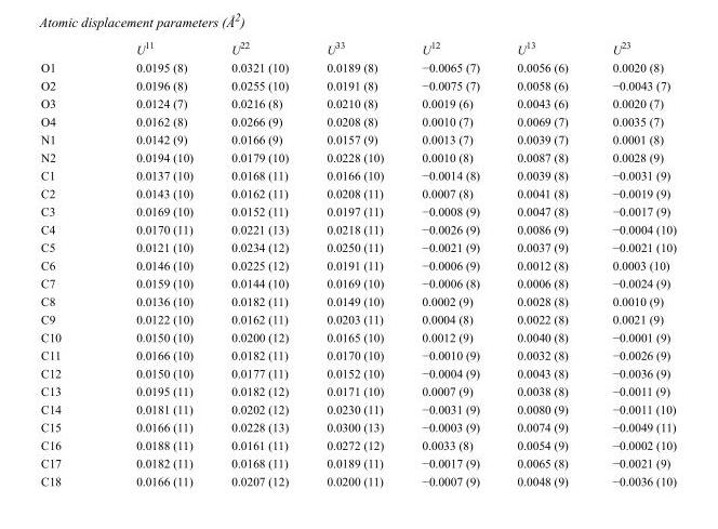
<table><thead><tr><td></td><td>U<sup>11</sup></td><td>U<sup>22</sup></td><td>U<sup>33</sup></td><td>U<sup>12</sup></td><td>U<sup>13</sup></td><td>U<sup>23</sup></td></tr></thead><tbody><tr><td>O1</td><td>0.0195 (8)</td><td>0.0321 (10)</td><td>0.0189 (8)</td><td>−0.0065 (7)</td><td>0.0056 (6)</td><td>0.0020 (8)</td></tr><tr><td>O2</td><td>0.0196 (8)</td><td>0.0255 (10)</td><td>0.0191 (8)</td><td>−0.0075 (7)</td><td>0.0058 (6)</td><td>−0.0043 (7)</td></tr><tr><td>O3</td><td>0.0124 (7)</td><td>0.0216 (8)</td><td>0.0210 (8)</td><td>0.0019 (6)</td><td>0.0043 (6)</td><td>0.0020 (7)</td></tr><tr><td>O4</td><td>0.0162 (8)</td><td>0.0266 (9)</td><td>0.0208 (8)</td><td>0.0010 (7)</td><td>0.0069 (7)</td><td>0.0035 (7)</td></tr><tr><td>N1</td><td>0.0142 (9)</td><td>0.0166 (9)</td><td>0.0157 (9)</td><td>0.0013 (7)</td><td>0.0039 (7)</td><td>0.0001 (8)</td></tr><tr><td>N2</td><td>0.0194 (10)</td><td>0.0179 (10)</td><td>0.0228 (10)</td><td>0.0010 (8)</td><td>0.0087 (8)</td><td>0.0028 (9)</td></tr><tr><td>C1</td><td>0.0137 (10)</td><td>0.0168 (11)</td><td>0.0166 (10)</td><td>−0.0014 (8)</td><td>0.0039 (8)</td><td>−0.0031 (9)</td></tr><tr><td>C2</td><td>0.0143 (10)</td><td>0.0162 (11)</td><td>0.0208 (11)</td><td>0.0007 (8)</td><td>0.0041 (8)</td><td>−0.0019 (9)</td></tr><tr><td>C3</td><td>0.0169 (10)</td><td>0.0152 (11)</td><td>0.0197 (11)</td><td>−0.0008 (9)</td><td>0.0047 (8)</td><td>−0.0017 (9)</td></tr><tr><td>C4</td><td>0.0170 (11)</td><td>0.0221 (13)</td><td>0.0218 (11)</td><td>−0.0026 (9)</td><td>0.0086 (9)</td><td>−0.0004 (10)</td></tr><tr><td>C5</td><td>0.0121 (10)</td><td>0.0234 (12)</td><td>0.0250 (11)</td><td>−0.0021 (9)</td><td>0.0037 (9)</td><td>−0.0021 (10)</td></tr><tr><td>C6</td><td>0.0146 (10)</td><td>0.0225 (12)</td><td>0.0191 (11)</td><td>−0.0006 (9)</td><td>0.0012 (8)</td><td>0.0003 (10)</td></tr><tr><td>C7</td><td>0.0159 (10)</td><td>0.0144 (10)</td><td>0.0169 (10)</td><td>−0.0006 (8)</td><td>0.0006 (8)</td><td>−0.0024 (9)</td></tr><tr><td>C8</td><td>0.0136 (10)</td><td>0.0182 (11)</td><td>0.0149 (10)</td><td>0.0002 (9)</td><td>0.0028 (8)</td><td>0.0010 (9)</td></tr><tr><td>C9</td><td>0.0122 (10)</td><td>0.0162 (11)</td><td>0.0203 (11)</td><td>0.0004 (8)</td><td>0.0022 (8)</td><td>0.0021 (9)</td></tr><tr><td>C10</td><td>0.0150 (10)</td><td>0.0200 (12)</td><td>0.0165 (10)</td><td>0.0012 (9)</td><td>0.0040 (8)</td><td>−0.0001 (9)</td></tr><tr><td>C11</td><td>0.0166 (10)</td><td>0.0182 (11)</td><td>0.0170 (10)</td><td>−0.0010 (9)</td><td>0.0032 (8)</td><td>−0.0026 (9)</td></tr><tr><td>C12</td><td>0.0150 (10)</td><td>0.0177 (11)</td><td>0.0152 (10)</td><td>−0.0004 (9)</td><td>0.0043 (8)</td><td>−0.0036 (9)</td></tr><tr><td>C13</td><td>0.0195 (11)</td><td>0.0182 (12)</td><td>0.0171 (10)</td><td>0.0007 (9)</td><td>0.0038 (8)</td><td>−0.0011 (9)</td></tr><tr><td>C14</td><td>0.0181 (11)</td><td>0.0202 (12)</td><td>0.0230 (11)</td><td>−0.0031 (9)</td><td>0.0080 (9)</td><td>−0.0011 (10)</td></tr><tr><td>C15</td><td>0.0166 (11)</td><td>0.0228 (13)</td><td>0.0300 (13)</td><td>−0.0003 (9)</td><td>0.0074 (9)</td><td>−0.0049 (11)</td></tr><tr><td>C16</td><td>0.0188 (11)</td><td>0.0161 (11)</td><td>0.0272 (12)</td><td>0.0033 (8)</td><td>0.0054 (9)</td><td>−0.0002 (10)</td></tr><tr><td>C17</td><td>0.0182 (11)</td><td>0.0168 (11)</td><td>0.0189 (11)</td><td>−0.0017 (9)</td><td>0.0065 (8)</td><td>−0.0021 (9)</td></tr><tr><td>C18</td><td>0.0166 (11)</td><td>0.0207 (12)</td><td>0.0200 (11)</td><td>−0.0007 (9)</td><td>0.0048 (9)</td><td>−0.0036 (10)</td></tr></tbody></table>